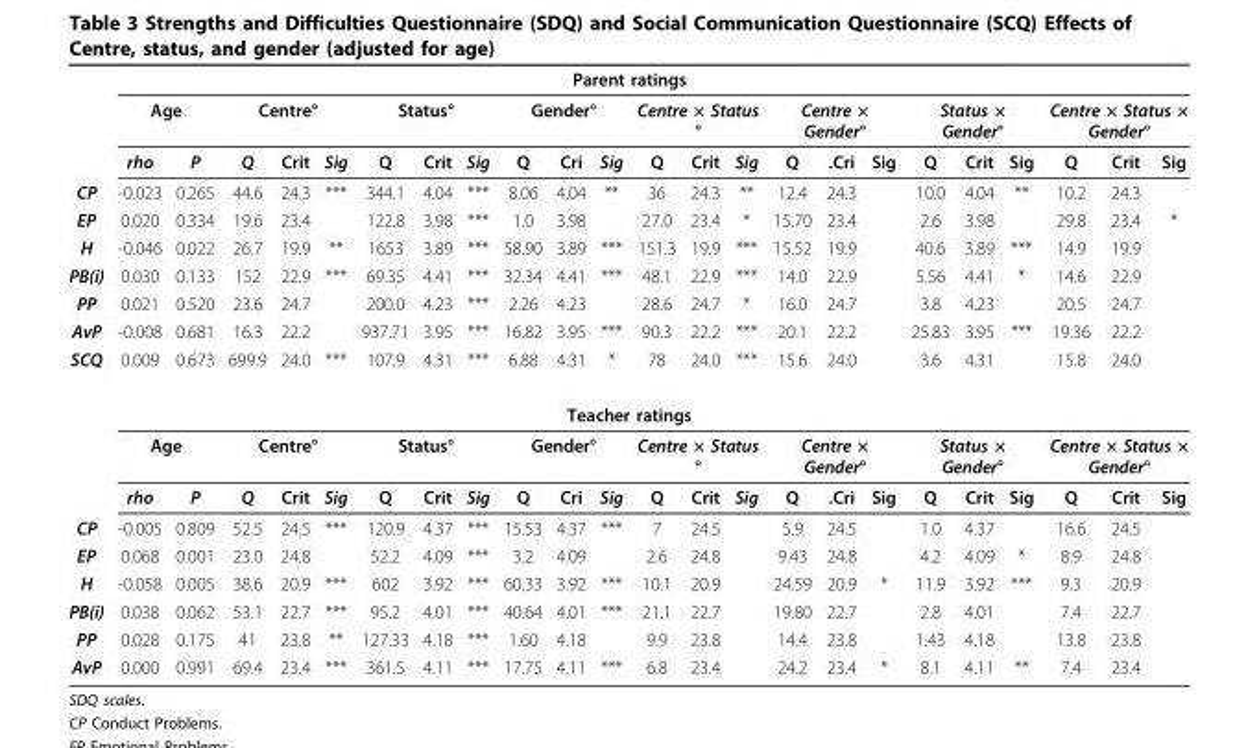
<table><tbody><tr><td colspan="24">Parent ratings</td></tr><tr><td></td><td colspan="2">Age</td><td colspan="3">Centre°</td><td colspan="3">Status°</td><td colspan="3">Gender°</td><td colspan="3">Centre × Status °</td><td colspan="3">Centre × Gender°</td><td colspan="3">Status × Gender°</td><td colspan="3">Centre × Status × Gender°</td></tr><tr><td></td><td>rho</td><td>P</td><td>Q</td><td>Crit</td><td>Sig</td><td>Q</td><td>Crit</td><td>Sig</td><td>Q</td><td>Cri</td><td>Sig</td><td>Q</td><td>Crit</td><td>Sig</td><td>Q</td><td>.Cri</td><td>Sig</td><td>Q</td><td>Crit</td><td>Sig</td><td>Q</td><td>Crit</td><td>Sig</td></tr><tr><td>CP</td><td>-0.023</td><td>0.265</td><td>44.6</td><td>24.3</td><td>***</td><td>344.1</td><td>4.04</td><td>***</td><td>8.06</td><td>4.04</td><td>**</td><td>36</td><td>24.3</td><td>**</td><td>12.4</td><td>24.3</td><td></td><td>10.0</td><td>4.04</td><td>**</td><td>10.2</td><td>24.3</td><td></td></tr><tr><td>EP</td><td>0.020</td><td>0.334</td><td>19.6</td><td>23.4</td><td></td><td>122.8</td><td>3.98</td><td>***</td><td>1.0</td><td>3.98</td><td></td><td>27.0</td><td>23.4</td><td>*</td><td>15.70</td><td>23.4</td><td></td><td>2.6</td><td>3.98</td><td></td><td>29.8</td><td>23.4</td><td>*</td></tr><tr><td>H</td><td>-0.046</td><td>0.022</td><td>26.7</td><td>19.9</td><td>**</td><td>1653</td><td>3.89</td><td>***</td><td>58.90</td><td>3.89</td><td>***</td><td>151.3</td><td>19.9</td><td>***</td><td>15.52</td><td>19.9</td><td></td><td>40.6</td><td>3.89</td><td>***</td><td>14.9</td><td>19.9</td><td></td></tr><tr><td>PB(i)</td><td>0.030</td><td>0.133</td><td>152</td><td>22.9</td><td>***</td><td>69.35</td><td>4.41</td><td>***</td><td>32.34</td><td>4.41</td><td>***</td><td>48.1</td><td>22.9</td><td>***</td><td>14.0</td><td>22.9</td><td></td><td>5.56</td><td>4.41</td><td>*</td><td>14.6</td><td>22.9</td><td></td></tr><tr><td>PP</td><td>0.021</td><td>0.520</td><td>23.6</td><td>24.7</td><td></td><td>200.0</td><td>4.23</td><td>***</td><td>2.26</td><td>4.23</td><td></td><td>28.6</td><td>24.7</td><td>*</td><td>16.0</td><td>24.7</td><td></td><td>3.8</td><td>4.23</td><td></td><td>20.5</td><td>24.7</td><td></td></tr><tr><td>AvP</td><td>-0.008</td><td>0.681</td><td>16.3</td><td>22.2</td><td></td><td>937.71</td><td>3.95</td><td>***</td><td>16.82</td><td>3.95</td><td>***</td><td>90.3</td><td>22.2</td><td>***</td><td>20.1</td><td>22.2</td><td></td><td>25.83</td><td>3.95</td><td>***</td><td>19.36</td><td>22.2</td><td></td></tr><tr><td>SCQ</td><td>0.009</td><td>0.673</td><td>699.9</td><td>24.0</td><td>***</td><td>107.9</td><td>4.31</td><td>***</td><td>6.88</td><td>4.31</td><td>*</td><td>78</td><td>24.0</td><td>***</td><td>15.6</td><td>24.0</td><td></td><td>3.6</td><td>4.31</td><td></td><td>15.8</td><td>24.0</td><td></td></tr><tr><td colspan="24">Teacher ratings</td></tr><tr><td></td><td colspan="2">Age</td><td colspan="3">Centre°</td><td colspan="3">Status°</td><td colspan="3">Gender°</td><td colspan="3">Centre × Status °</td><td colspan="3">Centre × Gender°</td><td colspan="3">Status × Gender°</td><td colspan="3">Centre × Status × Gender°</td></tr><tr><td></td><td>rho</td><td>P</td><td>Q</td><td>Crit</td><td>Sig</td><td>Q</td><td>Crit</td><td>Sig</td><td>Q</td><td>Cri</td><td>Sig</td><td>Q</td><td>Crit</td><td>Sig</td><td>Q</td><td>.Cri</td><td>Sig</td><td>Q</td><td>Crit</td><td>Sig</td><td>Q</td><td>Crit</td><td>Sig</td></tr><tr><td>CP</td><td>-0.005</td><td>0.809</td><td>52.5</td><td>24.5</td><td>***</td><td>120.9</td><td>4.37</td><td>***</td><td>15.53</td><td>4.37</td><td>***</td><td>7</td><td>24.5</td><td></td><td>5.9</td><td>24.5</td><td></td><td>1.0</td><td>4.37</td><td></td><td>16.6</td><td>24.5</td><td></td></tr><tr><td>EP</td><td>0.068</td><td>0.001</td><td>23.0</td><td>24.8</td><td></td><td>52.2</td><td>4.09</td><td>***</td><td>3.2</td><td>4.09</td><td></td><td>2.6</td><td>24.8</td><td></td><td>9.43</td><td>24.8</td><td></td><td>4.2</td><td>4.09</td><td>*</td><td>8.9</td><td>24.8</td><td></td></tr><tr><td>H</td><td>-0.058</td><td>0.005</td><td>38.6</td><td>20.9</td><td>***</td><td>602</td><td>3.92</td><td>***</td><td>60.33</td><td>3.92</td><td>***</td><td>10.1</td><td>20.9</td><td></td><td>24.59</td><td>20.9</td><td>*</td><td>11.9</td><td>3.92</td><td>***</td><td>9.3</td><td>20.9</td><td></td></tr><tr><td>PB(i)</td><td>0.038</td><td>0.062</td><td>53.1</td><td>22.7</td><td>***</td><td>95.2</td><td>4.01</td><td>***</td><td>40.64</td><td>4.01</td><td>***</td><td>21.1</td><td>22.7</td><td></td><td>19.80</td><td>22.7</td><td></td><td>2.8</td><td>4.01</td><td></td><td>7.4</td><td>22.7</td><td></td></tr><tr><td>PP</td><td>0.028</td><td>0.175</td><td>41</td><td>23.8</td><td>**</td><td>127.33</td><td>4.18</td><td>***</td><td>1.60</td><td>4.18</td><td></td><td>9.9</td><td>23.8</td><td></td><td>14.4</td><td>23.8</td><td></td><td>1.43</td><td>4.18</td><td></td><td>13.8</td><td>23.8</td><td></td></tr><tr><td>AvP</td><td>0.000</td><td>0.991</td><td>69.4</td><td>23.4</td><td>***</td><td>361.5</td><td>4.11</td><td>***</td><td>17.75</td><td>4.11</td><td>***</td><td>6.8</td><td>23.4</td><td></td><td>24.2</td><td>23.4</td><td>*</td><td>8.1</td><td>4.11</td><td>**</td><td>7.4</td><td>23.4</td><td></td></tr></tbody></table>